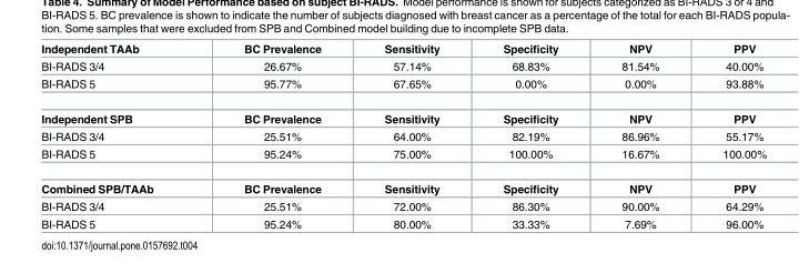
<table><tbody><tr><td>Independent TAAb</td><td>BC Prevalence</td><td>Sensitivity</td><td>Specificity</td><td>NPV</td><td>PPV</td></tr><tr><td>BI-RADS 3/4</td><td>26.67%</td><td>57.14%</td><td>68.83%</td><td>81.54%</td><td>40.00%</td></tr><tr><td>BI-RADS 5</td><td>95.77%</td><td>67.65%</td><td>0.00%</td><td>0.00%</td><td>93.88%</td></tr><tr><td>Independent SPB</td><td>BC Prevalence</td><td>Sensitivity</td><td>Specificity</td><td>NPV</td><td>PPV</td></tr><tr><td>BI-RADS 3/4</td><td>25.51%</td><td>64.00%</td><td>82.19%</td><td>86.96%</td><td>55.17%</td></tr><tr><td>BI-RADS 5</td><td>95.24%</td><td>75.00%</td><td>100.00%</td><td>16.67%</td><td>100.00%</td></tr><tr><td>Combined SPB/TAAb</td><td>BC Prevalence</td><td>Sensitivity</td><td>Specificity</td><td>NPV</td><td>PPV</td></tr><tr><td>BI-RADS 3/4</td><td>25.51%</td><td>72.00%</td><td>86.30%</td><td>90.00%</td><td>64.29%</td></tr><tr><td>BI-RADS 5</td><td>95.24%</td><td>80.00%</td><td>33.33%</td><td>7.69%</td><td>96.00%</td></tr></tbody></table>